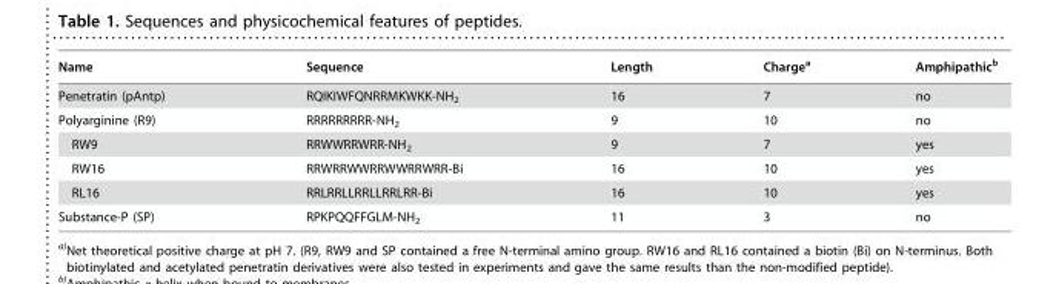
<table><thead><tr><td>Name</td><td>Sequence</td><td>Length</td><td>Charge<sup>a</sup></td><td>Amphipathic<sup>b</sup></td></tr></thead><tbody><tr><td>Penetratin (pAntp)</td><td>RQIKIWFQNRRMKWKK-NH<sub>2</sub></td><td>16</td><td>7</td><td>no</td></tr><tr><td>Polyarginine (R9)</td><td>RRRRRRRRR-NH<sub>2</sub></td><td>9</td><td>10</td><td>no</td></tr><tr><td>RW9</td><td>RRWWRRWRR-NH<sub>2</sub></td><td>9</td><td>7</td><td>yes</td></tr><tr><td>RW16</td><td>RRWRRWWRRWWRRWRR-Bi</td><td>16</td><td>10</td><td>yes</td></tr><tr><td>RL16</td><td>RRLRRLLRRLLRRLRR-Bi</td><td>16</td><td>10</td><td>yes</td></tr><tr><td>Substance-P (SP)</td><td>RPKPQQFFGLM-NH<sub>2</sub></td><td>11</td><td>3</td><td>no</td></tr></tbody></table>